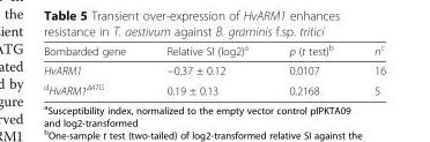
<table><thead><tr><td>Bombarded gene</td><td>Relative SI (log2)<sup>a</sup></td><td>p (t test)<sup>b</sup></td><td>n<sup>c</sup></td></tr></thead><tbody><tr><td>HvARM1</td><td>−0.37 ± 0.12</td><td>0.0107</td><td>16</td></tr><tr><td>dHvARM1ΔATG</td><td>0.19 ± 0.13</td><td>0.2168</td><td>5</td></tr></tbody></table>